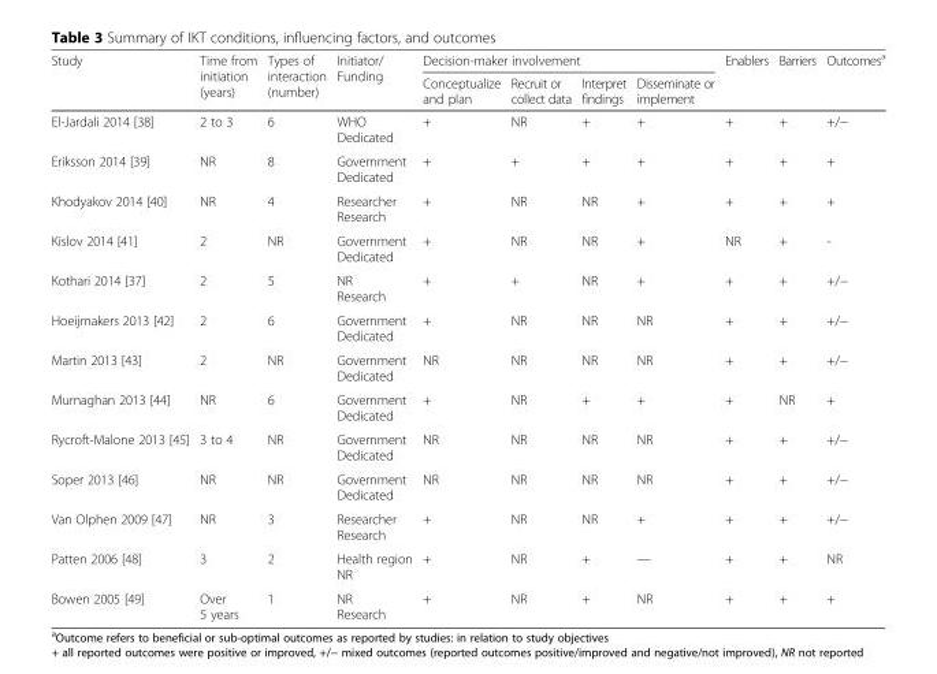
<table><thead><tr><td rowspan="2">Study</td><td rowspan="2">Time from initiation (years)</td><td rowspan="2">Types of interaction (number)</td><td rowspan="2">Initiator/ Funding</td><td colspan="4">Decision-maker involvement</td><td rowspan="2">Enablers</td><td rowspan="2">Barriers</td><td rowspan="2">Outcomes<sup>a</sup></td></tr><tr><td>Conceptualize and plan</td><td>Recruit or collect data</td><td>Interpret findings</td><td>Disseminate or implement</td></tr></thead><tbody><tr><td>El-Jardali 2014 [38]</td><td>2 to 3</td><td>6</td><td>WHO Dedicated</td><td>+</td><td>NR</td><td>+</td><td>+</td><td>+</td><td>+</td><td>+/−</td></tr><tr><td>Eriksson 2014 [39]</td><td>NR</td><td>8</td><td>Government Dedicated</td><td>+</td><td>+</td><td>+</td><td>+</td><td>+</td><td>+</td><td>+</td></tr><tr><td>Khodyakov 2014 [40]</td><td>NR</td><td>4</td><td>Researcher Research</td><td>+</td><td>NR</td><td>NR</td><td>+</td><td>+</td><td>+</td><td>+</td></tr><tr><td>Kislov 2014 [41]</td><td>2</td><td>NR</td><td>Government Dedicated</td><td>+</td><td>NR</td><td>NR</td><td>+</td><td>NR</td><td>+</td><td>-</td></tr><tr><td>Kothari 2014 [37]</td><td>2</td><td>5</td><td>NR Research</td><td>+</td><td>+</td><td>NR</td><td>+</td><td>+</td><td>+</td><td>+/−</td></tr><tr><td>Hoeijmakers 2013 [42]</td><td>2</td><td>6</td><td>Government Dedicated</td><td>+</td><td>NR</td><td>NR</td><td>NR</td><td>+</td><td>+</td><td>+/−</td></tr><tr><td>Martin 2013 [43]</td><td>2</td><td>NR</td><td>Government Dedicated</td><td>NR</td><td>NR</td><td>NR</td><td>NR</td><td>+</td><td>+</td><td>+/−</td></tr><tr><td>Murnaghan 2013 [44]</td><td>NR</td><td>6</td><td>Government Dedicated</td><td>+</td><td>NR</td><td>+</td><td>+</td><td>+</td><td>NR</td><td>+</td></tr><tr><td>Rycroft-Malone 2013 [45]</td><td>3 to 4</td><td>NR</td><td>Government Dedicated</td><td>NR</td><td>NR</td><td>NR</td><td>NR</td><td>+</td><td>+</td><td>+/−</td></tr><tr><td>Soper 2013 [46]</td><td>NR</td><td>NR</td><td>Government Dedicated</td><td>NR</td><td>NR</td><td>NR</td><td>NR</td><td>+</td><td>+</td><td>+/−</td></tr><tr><td>Van Olphen 2009 [47]</td><td>NR</td><td>3</td><td>Researcher Research</td><td>+</td><td>NR</td><td>NR</td><td>+</td><td>+</td><td>+</td><td>+/−</td></tr><tr><td>Patten 2006 [48]</td><td>3</td><td>2</td><td>Health region NR</td><td>+</td><td>NR</td><td>+</td><td>—</td><td>+</td><td>+</td><td>NR</td></tr><tr><td>Bowen 2005 [49]</td><td>Over 5 years</td><td>1</td><td>NR Research</td><td>+</td><td>NR</td><td>+</td><td>NR</td><td>+</td><td>+</td><td>+</td></tr></tbody></table>